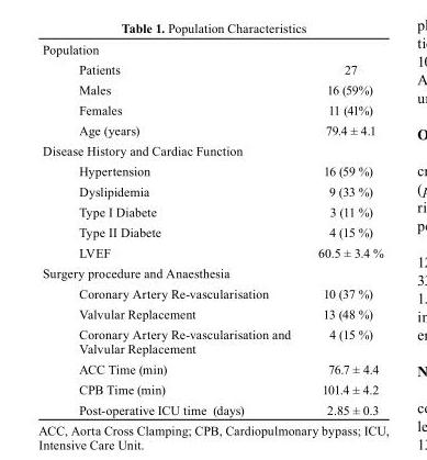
<table><tbody><tr><td colspan="2">Population</td></tr><tr><td>Patients</td><td>27</td></tr><tr><td>Males</td><td>16 (59%)</td></tr><tr><td>Females</td><td>11 (41%)</td></tr><tr><td>Age (years)</td><td>79.4 ± 4.1</td></tr><tr><td colspan="2">Disease History and Cardiac Function</td></tr><tr><td>Hypertension</td><td>16 (59 %)</td></tr><tr><td>Dyslipidemia</td><td>9 (33 %)</td></tr><tr><td>Type I Diabete</td><td>3 (11 %)</td></tr><tr><td>Type II Diabete</td><td>4 (15 %)</td></tr><tr><td>LVEF</td><td>60.5 ± 3.4 %</td></tr><tr><td colspan="2">Surgery procedure and Anaesthesia</td></tr><tr><td>Coronary Artery Re-vascularisation</td><td>10 (37 %)</td></tr><tr><td>Valvular Replacement</td><td>13 (48 %)</td></tr><tr><td>Coronary Artery Re-vascularisation and Valvular Replacement</td><td>4 (15 %)</td></tr><tr><td>ACC Time (min)</td><td>76.7 ± 4.4</td></tr><tr><td>CPB Time (min)</td><td>101.4 ± 4.2</td></tr><tr><td>Post-operative ICU time (days)</td><td>2.85 ± 0.3</td></tr></tbody></table>